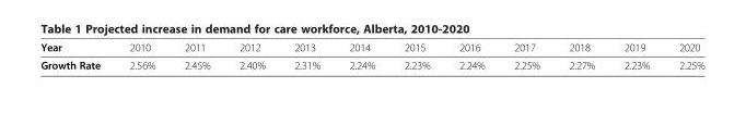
<table><thead><tr><td>Year</td><td>2010</td><td>2011</td><td>2012</td><td>2013</td><td>2014</td><td>2015</td><td>2016</td><td>2017</td><td>2018</td><td>2019</td><td>2020</td></tr></thead><tbody><tr><td>Growth Rate</td><td>2.56%</td><td>2.45%</td><td>2.40%</td><td>2.31%</td><td>2.24%</td><td>2.23%</td><td>2.24%</td><td>2.25%</td><td>2.27%</td><td>2.23%</td><td>2.25%</td></tr></tbody></table>